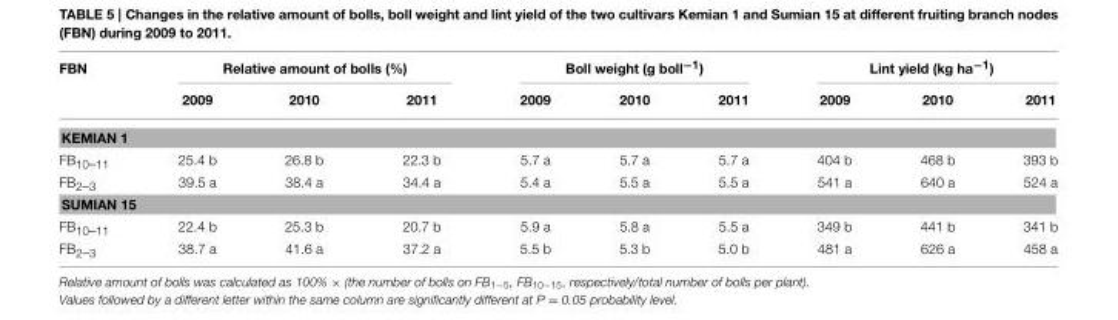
<table><thead><tr><td rowspan="2">FBN</td><td colspan="3">Relative amount of bolls (%)</td><td colspan="3">Boll weight (g boll<sup>−1</sup>)</td><td colspan="3">Lint yield (kg ha<sup>−1</sup>)</td></tr><tr><td>2009</td><td>2010</td><td>2011</td><td>2009</td><td>2010</td><td>2011</td><td>2009</td><td>2010</td><td>2011</td></tr></thead><tbody><tr><td colspan="10">KEMIAN 1</td></tr><tr><td>FB<sub>10–11</sub></td><td>25.4 b</td><td>26.8 b</td><td>22.3 b</td><td>5.7 a</td><td>5.7 a</td><td>5.7 a</td><td>404 b</td><td>468 b</td><td>393 b</td></tr><tr><td>FB<sub>2–3</sub></td><td>39.5 a</td><td>38.4 a</td><td>34.4 a</td><td>5.4 a</td><td>5.5 a</td><td>5.5 a</td><td>541 a</td><td>640 a</td><td>524 a</td></tr><tr><td colspan="10">SUMIAN 15</td></tr><tr><td>FB<sub>10–11</sub></td><td>22.4 b</td><td>25.3 b</td><td>20.7 b</td><td>5.9 a</td><td>5.8 a</td><td>5.5 a</td><td>349 b</td><td>441 b</td><td>341 b</td></tr><tr><td>FB<sub>2–3</sub></td><td>38.7 a</td><td>41.6 a</td><td>37.2 a</td><td>5.5 b</td><td>5.3 b</td><td>5.0 b</td><td>481 a</td><td>626 a</td><td>458 a</td></tr></tbody></table>